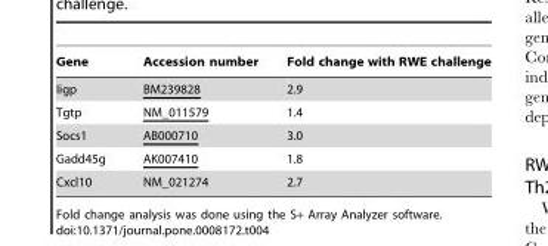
<table><thead><tr><td>Gene</td><td>Accession number</td><td>Fold change with RWE challenge</td></tr></thead><tbody><tr><td>Iigp</td><td>BM239828</td><td>2.9</td></tr><tr><td>Tgtp</td><td>NM_011579</td><td>1.4</td></tr><tr><td>Socs1</td><td>AB000710</td><td>3.0</td></tr><tr><td>Gadd45g</td><td>AK007410</td><td>1.8</td></tr><tr><td>Cxcl10</td><td>NM_021274</td><td>2.7</td></tr></tbody></table>